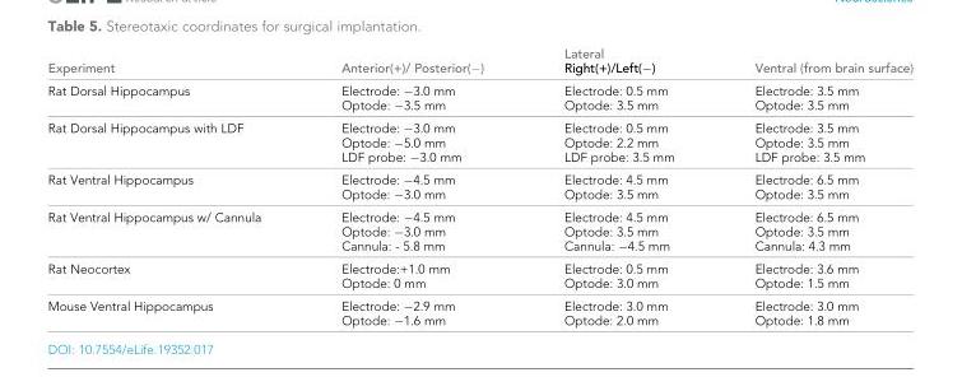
<table><thead><tr><td>Experiment</td><td>Anterior(+)/ Posterior(−)</td><td>Lateral Right(+)/Left(−)</td><td>Ventral (from brain surface)</td></tr></thead><tbody><tr><td>Rat Dorsal Hippocampus</td><td>Electrode: −3.0 mm Optode: −3.5 mm</td><td>Electrode: 0.5 mm Optode: 3.5 mm</td><td>Electrode: 3.5 mm Optode: 3.5 mm</td></tr><tr><td>Rat Dorsal Hippocampus with LDF</td><td>Electrode: −3.0 mm Optode: −5.0 mm LDF probe: −3.0 mm</td><td>Electrode: 0.5 mm Optode: 2.2 mm LDF probe: 3.5 mm</td><td>Electrode: 3.5 mm Optode: 3.5 mm LDF probe: 3.5 mm</td></tr><tr><td>Rat Ventral Hippocampus</td><td>Electrode: −4.5 mm Optode: −3.0 mm</td><td>Electrode: 4.5 mm Optode: 3.5 mm</td><td>Electrode: 6.5 mm Optode: 3.5 mm</td></tr><tr><td>Rat Ventral Hippocampus w/ Cannula</td><td>Electrode: −4.5 mm Optode: −3.0 mm Cannula: - 5.8 mm</td><td>Electrode: 4.5 mm Optode: 3.5 mm Cannula: −4.5 mm</td><td>Electrode: 6.5 mm Optode: 3.5 mm Cannula: 4.3 mm</td></tr><tr><td>Rat Neocortex</td><td>Electrode:+1.0 mm Optode: 0 mm</td><td>Electrode: 0.5 mm Optode: 3.0 mm</td><td>Electrode: 3.6 mm Optode: 1.5 mm</td></tr><tr><td>Mouse Ventral Hippocampus</td><td>Electrode: −2.9 mm Optode: −1.6 mm</td><td>Electrode: 3.0 mm Optode: 2.0 mm</td><td>Electrode: 3.0 mm Optode: 1.8 mm</td></tr></tbody></table>